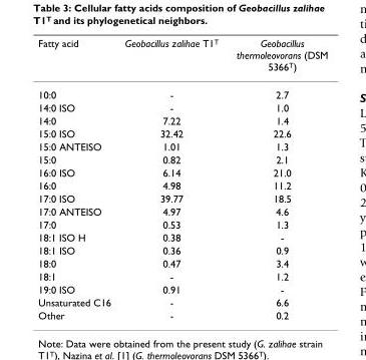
<table><thead><tr><td>Fatty acid</td><td>Geobacillus zalihae T1<sup>T</sup></td><td>Geobacillus thermoleovorans (DSM 5366<sup>T</sup>)</td></tr></thead><tbody><tr><td>10:0</td><td>-</td><td>2.7</td></tr><tr><td>14:0 ISO</td><td>-</td><td>1.0</td></tr><tr><td>14:0</td><td>7.22</td><td>1.4</td></tr><tr><td>15:0 ISO</td><td>32.42</td><td>22.6</td></tr><tr><td>15:0 ANTEISO</td><td>1.01</td><td>1.3</td></tr><tr><td>15:0</td><td>0.82</td><td>2.1</td></tr><tr><td>16:0 ISO</td><td>6.14</td><td>21.0</td></tr><tr><td>16:0</td><td>4.98</td><td>11.2</td></tr><tr><td>17:0 ISO</td><td>39.77</td><td>18.5</td></tr><tr><td>17:0 ANTEISO</td><td>4.97</td><td>4.6</td></tr><tr><td>17:0</td><td>0.53</td><td>1.3</td></tr><tr><td>18:1 ISO H</td><td>0.38</td><td>-</td></tr><tr><td>18:1 ISO</td><td>0.36</td><td>0.9</td></tr><tr><td>18:0</td><td>0.47</td><td>3.4</td></tr><tr><td>18:1</td><td>-</td><td>1.2</td></tr><tr><td>19:0 ISO</td><td>0.91</td><td>-</td></tr><tr><td>Unsaturated C16</td><td>-</td><td>6.6</td></tr><tr><td>Other</td><td>-</td><td>0.2</td></tr></tbody></table>